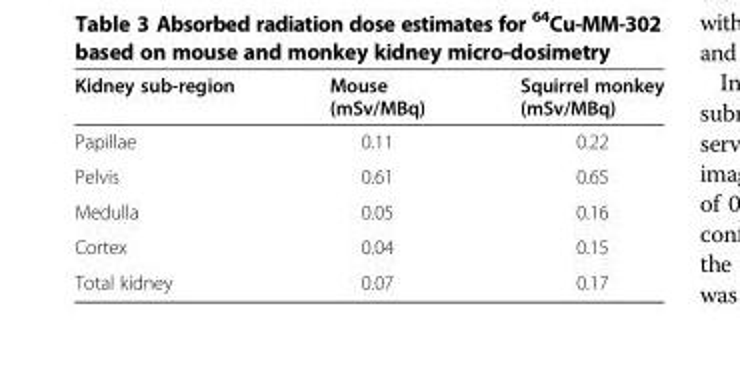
<table><thead><tr><td>Kidney sub-region</td><td>Mouse (mSv/MBq)</td><td>Squirrel monkey (mSv/MBq)</td></tr></thead><tbody><tr><td>Papillae</td><td>0.11</td><td>0.22</td></tr><tr><td>Pelvis</td><td>0.61</td><td>0.65</td></tr><tr><td>Medulla</td><td>0.05</td><td>0.16</td></tr><tr><td>Cortex</td><td>0.04</td><td>0.15</td></tr><tr><td>Total kidney</td><td>0.07</td><td>0.17</td></tr></tbody></table>